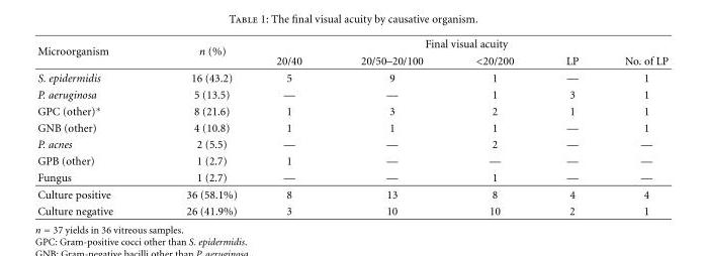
<table><thead><tr><td rowspan="2">Microorganism</td><td rowspan="2">n (%)</td><td colspan="5">Final visual acuity</td></tr><tr><td>20/40</td><td>20/50–20/100</td><td>&lt;20/200</td><td>LP</td><td>No. of LP</td></tr></thead><tbody><tr><td>S. epidermidis</td><td>16 (43.2)</td><td>5</td><td>9</td><td>1</td><td>—</td><td>1</td></tr><tr><td>P. aeruginosa</td><td>5 (13.5)</td><td>—</td><td>—</td><td>1</td><td>3</td><td>1</td></tr><tr><td>GPC (other)∗</td><td>8 (21.6)</td><td>1</td><td>3</td><td>2</td><td>1</td><td>1</td></tr><tr><td>GNB (other)</td><td>4 (10.8)</td><td>1</td><td>1</td><td>1</td><td>—</td><td>1</td></tr><tr><td>P. acnes</td><td>2 (5.5)</td><td>—</td><td>—</td><td>2</td><td>—</td><td>—</td></tr><tr><td>GPB (other)</td><td>1 (2.7)</td><td>1</td><td>—</td><td>—</td><td>—</td><td>—</td></tr><tr><td>Fungus</td><td>1 (2.7)</td><td>—</td><td>—</td><td>1</td><td>—</td><td>—</td></tr><tr><td>Culture positive</td><td>36 (58.1%)</td><td>8</td><td>13</td><td>8</td><td>4</td><td>4</td></tr><tr><td>Culture negative</td><td>26 (41.9%)</td><td>3</td><td>10</td><td>10</td><td>2</td><td>1</td></tr></tbody></table>